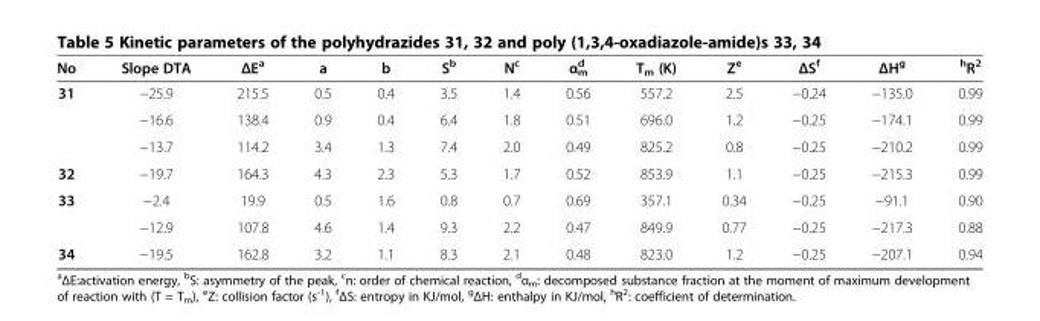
<table><thead><tr><td>No</td><td>Slope DTA</td><td>ΔE<sup>a</sup></td><td>a</td><td>b</td><td>S<sup>b</sup></td><td>N<sup>c</sup></td><td>α<sub>m</sub> <sup>d</sup></td><td>T<sub>m</sub> (K)</td><td>Z<sup>e</sup></td><td>ΔS<sup>f</sup></td><td>ΔH<sup>g</sup></td><td><sup>h</sup>R<sup>2</sup></td></tr></thead><tbody><tr><td rowspan="3">31</td><td>−25.9</td><td>215.5</td><td>0.5</td><td>0.4</td><td>3.5</td><td>1.4</td><td>0.56</td><td>557.2</td><td>2.5</td><td>−0.24</td><td>−135.0</td><td>0.99</td></tr><tr><td>−16.6</td><td>138.4</td><td>0.9</td><td>0.4</td><td>6.4</td><td>1.8</td><td>0.51</td><td>696.0</td><td>1.2</td><td>−0.25</td><td>−174.1</td><td>0.99</td></tr><tr><td>−13.7</td><td>114.2</td><td>3.4</td><td>1.3</td><td>7.4</td><td>2.0</td><td>0.49</td><td>825.2</td><td>0.8</td><td>−0.25</td><td>−210.2</td><td>0.99</td></tr><tr><td>32</td><td>−19.7</td><td>164.3</td><td>4.3</td><td>2.3</td><td>5.3</td><td>1.7</td><td>0.52</td><td>853.9</td><td>1.1</td><td>−0.25</td><td>−215.3</td><td>0.99</td></tr><tr><td rowspan="2">33</td><td>−2.4</td><td>19.9</td><td>0.5</td><td>1.6</td><td>0.8</td><td>0.7</td><td>0.69</td><td>357.1</td><td>0.34</td><td>−0.25</td><td>−91.1</td><td>0.90</td></tr><tr><td>−12.9</td><td>107.8</td><td>4.6</td><td>1.4</td><td>9.3</td><td>2.2</td><td>0.47</td><td>849.9</td><td>0.77</td><td>−0.25</td><td>−217.3</td><td>0.88</td></tr><tr><td>34</td><td>−19.5</td><td>162.8</td><td>3.2</td><td>1.1</td><td>8.3</td><td>2.1</td><td>0.48</td><td>823.0</td><td>1.2</td><td>−0.25</td><td>−207.1</td><td>0.94</td></tr></tbody></table>